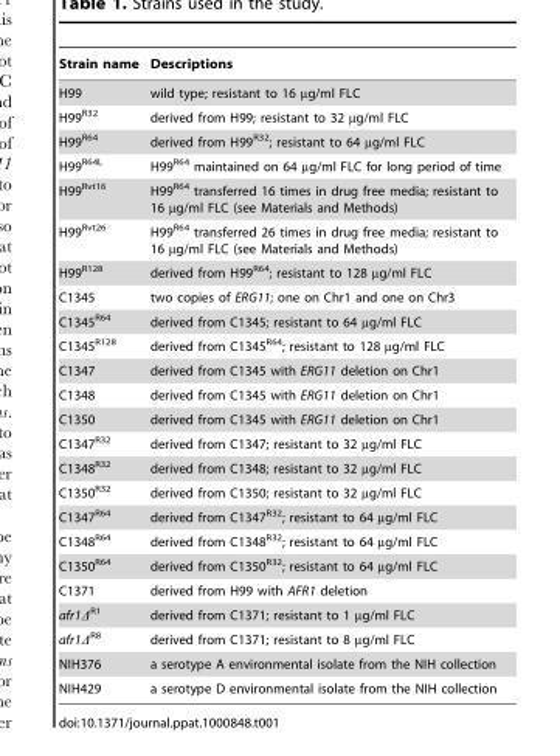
<table><thead><tr><td>Strain name</td><td>Descriptions</td></tr></thead><tbody><tr><td>H99</td><td>wild type; resistant to 16 µg/ml FLC</td></tr><tr><td>H99<sup>R32</sup></td><td>derived from H99; resistant to 32 µg/ml FLC</td></tr><tr><td>H99<sup>R64</sup></td><td>derived from H99<sup>R32</sup>; resistant to 64 µg/ml FLC</td></tr><tr><td>H99<sup>R64L</sup></td><td>H99<sup>R64</sup> maintained on 64 µg/ml FLC for long period of time</td></tr><tr><td>H99<sup>Rvt16</sup></td><td>H99<sup>R64</sup> transferred 16 times in drug free media; resistant to 16 µg/ml FLC (see Materials and Methods)</td></tr><tr><td>H99<sup>Rvt26</sup></td><td>H99<sup>R64</sup> transferred 26 times in drug free media; resistant to 16 µg/ml FLC (see Materials and Methods)</td></tr><tr><td>H99<sup>R128</sup></td><td>derived from H99<sup>R64</sup>; resistant to 128 µg/ml FLC</td></tr><tr><td>C1345</td><td>two copies of ERG11; one on Chr1 and one on Chr3</td></tr><tr><td>C1345<sup>R64</sup></td><td>derived from C1345; resistant to 64 µg/ml FLC</td></tr><tr><td>C1345<sup>R128</sup></td><td>derived from C1345<sup>R64</sup>; resistant to 128 µg/ml FLC</td></tr><tr><td>C1347</td><td>derived from C1345 with ERG11 deletion on Chr1</td></tr><tr><td>C1348</td><td>derived from C1345 with ERG11 deletion on Chr1</td></tr><tr><td>C1350</td><td>derived from C1345 with ERG11 deletion on Chr1</td></tr><tr><td>C1347<sup>R32</sup></td><td>derived from C1347; resistant to 32 µg/ml FLC</td></tr><tr><td>C1348<sup>R32</sup></td><td>derived from C1348; resistant to 32 µg/ml FLC</td></tr><tr><td>C1350<sup>R32</sup></td><td>derived from C1350; resistant to 32 µg/ml FLC</td></tr><tr><td>C1347<sup>R64</sup></td><td>derived from C1347<sup>R32</sup>; resistant to 64 µg/ml FLC</td></tr><tr><td>C1348<sup>R64</sup></td><td>derived from C1348<sup>R32</sup>; resistant to 64 µg/ml FLC</td></tr><tr><td>C1350<sup>R64</sup></td><td>derived from C1350<sup>R32</sup>; resistant to 64 µg/ml FLC</td></tr><tr><td>C1371</td><td>derived from H99 with AFR1 deletion</td></tr><tr><td>afr1Δ<sup>R1</sup></td><td>derived from C1371; resistant to 1 µg/ml FLC</td></tr><tr><td>afr1Δ<sup>R8</sup></td><td>derived from C1371; resistant to 8 µg/ml FLC</td></tr><tr><td>NIH376</td><td>a serotype A environmental isolate from the NIH collection</td></tr><tr><td>NIH429</td><td>a serotype D environmental isolate from the NIH collection</td></tr></tbody></table>